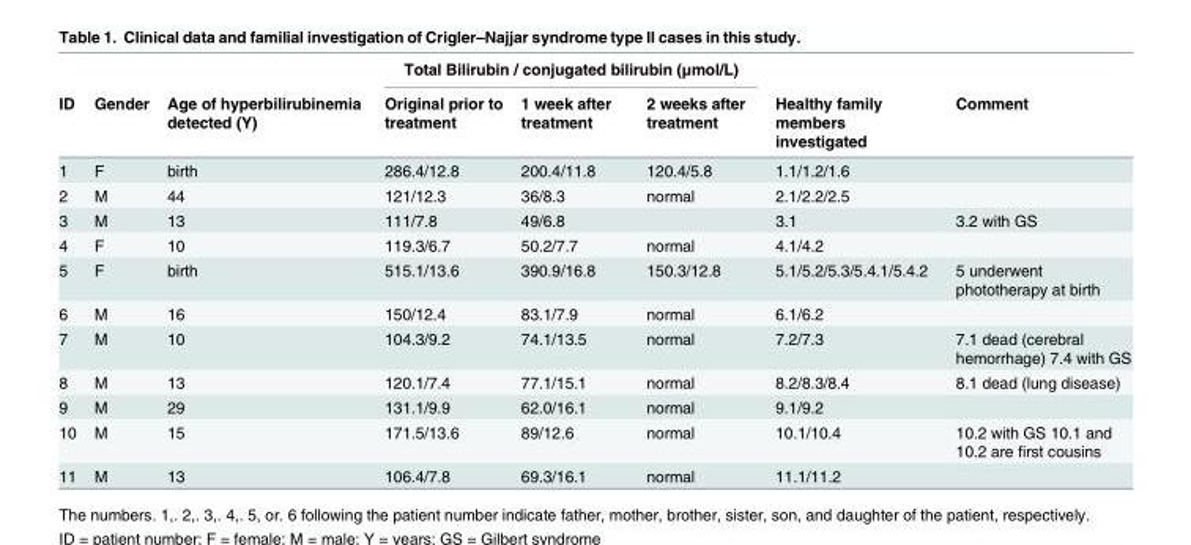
<table><thead><tr><td rowspan="2">ID</td><td rowspan="2">Gender</td><td rowspan="2">Age of hyperbilirubinemia detected (Y)</td><td colspan="3">Total Bilirubin / conjugated bilirubin (μmol/L)</td><td rowspan="2">Healthy family members investigated</td><td rowspan="2">Comment</td></tr><tr><td>Original prior to treatment</td><td>1 week after treatment</td><td>2 weeks after treatment</td></tr></thead><tbody><tr><td>1</td><td>F</td><td>birth</td><td>286.4/12.8</td><td>200.4/11.8</td><td>120.4/5.8</td><td>1.1/1.2/1.6</td><td></td></tr><tr><td>2</td><td>M</td><td>44</td><td>121/12.3</td><td>36/8.3</td><td>normal</td><td>2.1/2.2/2.5</td><td></td></tr><tr><td>3</td><td>M</td><td>13</td><td>111/7.8</td><td>49/6.8</td><td></td><td>3.1</td><td>3.2 with GS</td></tr><tr><td>4</td><td>F</td><td>10</td><td>119.3/6.7</td><td>50.2/7.7</td><td>normal</td><td>4.1/4.2</td><td></td></tr><tr><td>5</td><td>F</td><td>birth</td><td>515.1/13.6</td><td>390.9/16.8</td><td>150.3/12.8</td><td>5.1/5.2/5.3/5.4.1/5.4.2</td><td>5 underwent phototherapy at birth</td></tr><tr><td>6</td><td>M</td><td>16</td><td>150/12.4</td><td>83.1/7.9</td><td>normal</td><td>6.1/6.2</td><td></td></tr><tr><td>7</td><td>M</td><td>10</td><td>104.3/9.2</td><td>74.1/13.5</td><td>normal</td><td>7.2/7.3</td><td>7.1 dead (cerebral hemorrhage) 7.4 with GS</td></tr><tr><td>8</td><td>M</td><td>13</td><td>120.1/7.4</td><td>77.1/15.1</td><td>normal</td><td>8.2/8.3/8.4</td><td>8.1 dead (lung disease)</td></tr><tr><td>9</td><td>M</td><td>29</td><td>131.1/9.9</td><td>62.0/16.1</td><td>normal</td><td>9.1/9.2</td><td></td></tr><tr><td>10</td><td>M</td><td>15</td><td>171.5/13.6</td><td>89/12.6</td><td>normal</td><td>10.1/10.4</td><td>10.2 with GS 10.1 and 10.2 are first cousins</td></tr><tr><td>11</td><td>M</td><td>13</td><td>106.4/7.8</td><td>69.3/16.1</td><td>normal</td><td>11.1/11.2</td><td></td></tr></tbody></table>